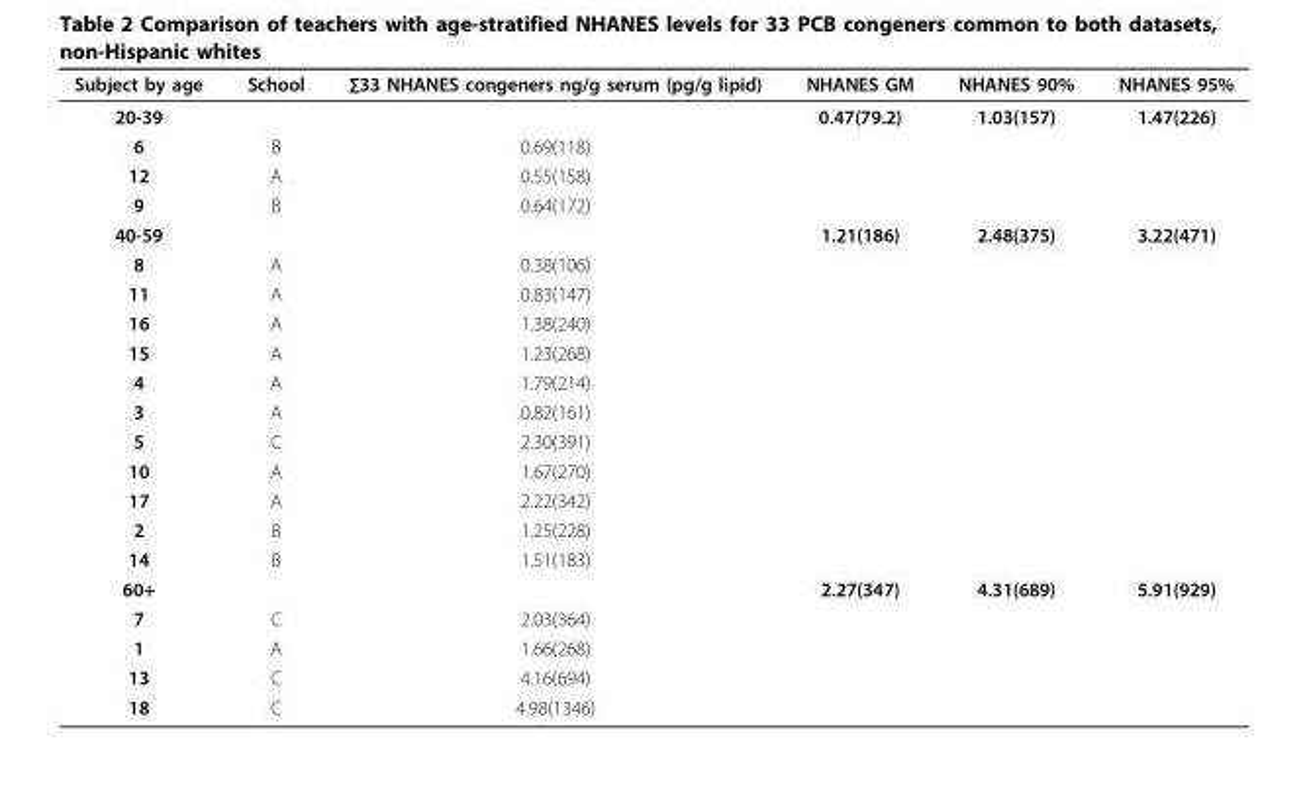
<table><thead><tr><td>Subject by age</td><td>School</td><td>∑33 NHANES congeners ng/g serum (pg/g lipid)</td><td>NHANES GM</td><td>NHANES 90%</td><td>NHANES 95%</td></tr></thead><tbody><tr><td>20-39</td><td></td><td></td><td>0.47(79.2)</td><td>1.03(157)</td><td>1.47(226)</td></tr><tr><td>6</td><td>B</td><td>0.69(118)</td><td></td><td></td><td></td></tr><tr><td>12</td><td>A</td><td>0.55(158)</td><td></td><td></td><td></td></tr><tr><td>9</td><td>B</td><td>0.64(172)</td><td></td><td></td><td></td></tr><tr><td>40-59</td><td></td><td></td><td>1.21(186)</td><td>2.48(375)</td><td>3.22(471)</td></tr><tr><td>8</td><td>A</td><td>0.38(106)</td><td></td><td></td><td></td></tr><tr><td>11</td><td>A</td><td>0.83(147)</td><td></td><td></td><td></td></tr><tr><td>16</td><td>A</td><td>1.38(240)</td><td></td><td></td><td></td></tr><tr><td>15</td><td>A</td><td>1.23(268)</td><td></td><td></td><td></td></tr><tr><td>4</td><td>A</td><td>1.79(214)</td><td></td><td></td><td></td></tr><tr><td>3</td><td>A</td><td>0.82(161)</td><td></td><td></td><td></td></tr><tr><td>5</td><td>C</td><td>2.30(391)</td><td></td><td></td><td></td></tr><tr><td>10</td><td>A</td><td>1.67(270)</td><td></td><td></td><td></td></tr><tr><td>17</td><td>A</td><td>2.22(342)</td><td></td><td></td><td></td></tr><tr><td>2</td><td>B</td><td>1.25(228)</td><td></td><td></td><td></td></tr><tr><td>14</td><td>B</td><td>1.51(183)</td><td></td><td></td><td></td></tr><tr><td>60+</td><td></td><td></td><td>2.27(347)</td><td>4.31(689)</td><td>5.91(929)</td></tr><tr><td>7</td><td>C</td><td>2.03(364)</td><td></td><td></td><td></td></tr><tr><td>1</td><td>A</td><td>1.66(268)</td><td></td><td></td><td></td></tr><tr><td>13</td><td>C</td><td>4.16(694)</td><td></td><td></td><td></td></tr><tr><td>18</td><td>C</td><td>4.98(1346)</td><td></td><td></td><td></td></tr></tbody></table>